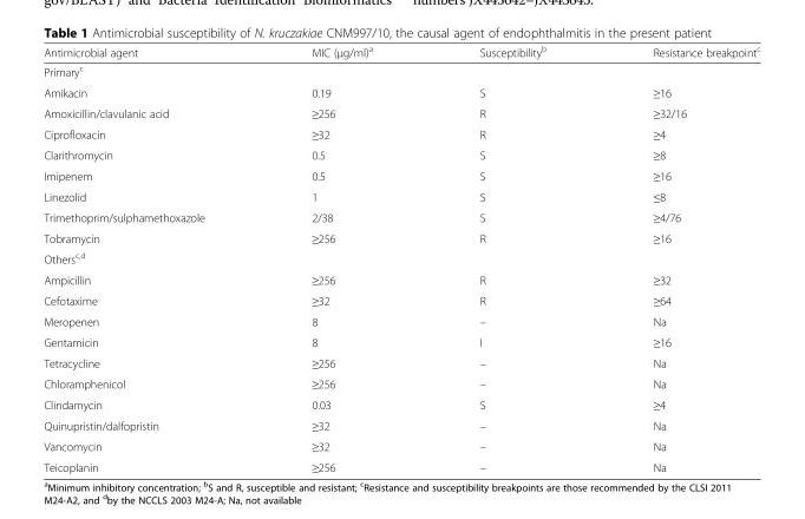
<table><thead><tr><td>Antimicrobial agent</td><td>MIC (μg/ml)<sup>a</sup></td><td>Susceptibility<sup>b</sup></td><td>Resistance breakpoint<sup>c</sup></td></tr></thead><tbody><tr><td colspan="4">Primary<sup>c</sup></td></tr><tr><td>Amikacin</td><td>0.19</td><td>S</td><td>≥16</td></tr><tr><td>Amoxicillin/clavulanic acid</td><td>≥256</td><td>R</td><td>≥32/16</td></tr><tr><td>Ciprofloxacin</td><td>≥32</td><td>R</td><td>≥4</td></tr><tr><td>Clarithromycin</td><td>0.5</td><td>S</td><td>≥8</td></tr><tr><td>Imipenem</td><td>0.5</td><td>S</td><td>≥16</td></tr><tr><td>Linezolid</td><td>1</td><td>S</td><td>≤8</td></tr><tr><td>Trimethoprim/sulphamethoxazole</td><td>2/38</td><td>S</td><td>≥4/76</td></tr><tr><td>Tobramycin</td><td>≥256</td><td>R</td><td>≥16</td></tr><tr><td colspan="4">Others<sup>c,d</sup></td></tr><tr><td>Ampicillin</td><td>≥256</td><td>R</td><td>≥32</td></tr><tr><td>Cefotaxime</td><td>≥32</td><td>R</td><td>≥64</td></tr><tr><td>Meropenen</td><td>8</td><td>–</td><td>Na</td></tr><tr><td>Gentamicin</td><td>8</td><td>I</td><td>≥16</td></tr><tr><td>Tetracycline</td><td>≥256</td><td>–</td><td>Na</td></tr><tr><td>Chloramphenicol</td><td>≥256</td><td>–</td><td>Na</td></tr><tr><td>Clindamycin</td><td>0.03</td><td>S</td><td>≥4</td></tr><tr><td>Quinupristin/dalfopristin</td><td>≥32</td><td>–</td><td>Na</td></tr><tr><td>Vancomycin</td><td>≥32</td><td>–</td><td>Na</td></tr><tr><td>Teicoplanin</td><td>≥256</td><td>–</td><td>Na</td></tr></tbody></table>